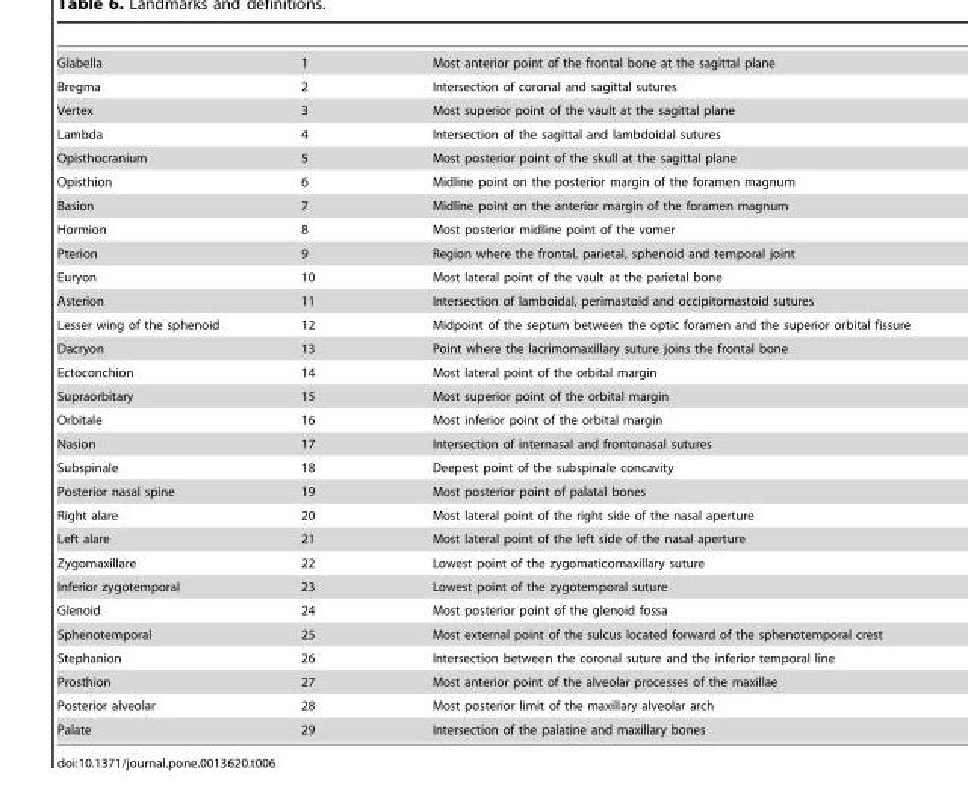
<table><tbody><tr><td>Glabella</td><td>1</td><td>Most anterior point of the frontal bone at the sagittal plane</td></tr><tr><td>Bregma</td><td>2</td><td>Intersection of coronal and sagittal sutures</td></tr><tr><td>Vertex</td><td>3</td><td>Most superior point of the vault at the sagittal plane</td></tr><tr><td>Lambda</td><td>4</td><td>Intersection of the sagittal and lambdoidal sutures</td></tr><tr><td>Opisthocranium</td><td>5</td><td>Most posterior point of the skull at the sagittal plane</td></tr><tr><td>Opisthion</td><td>6</td><td>Midline point on the posterior margin of the foramen magnum</td></tr><tr><td>Basion</td><td>7</td><td>Midline point on the anterior margin of the foramen magnum</td></tr><tr><td>Hormion</td><td>8</td><td>Most posterior midline point of the vomer</td></tr><tr><td>Pterion</td><td>9</td><td>Region where the frontal, parietal, sphenoid and temporal joint</td></tr><tr><td>Euryon</td><td>10</td><td>Most lateral point of the vault at the parietal bone</td></tr><tr><td>Asterion</td><td>11</td><td>Intersection of lamboidal, perimastoid and occipitomastoid sutures</td></tr><tr><td>Lesser wing of the sphenoid</td><td>12</td><td>Midpoint of the septum between the optic foramen and the superior orbital fissure</td></tr><tr><td>Dacryon</td><td>13</td><td>Point where the lacrimomaxillary suture joins the frontal bone</td></tr><tr><td>Ectoconchion</td><td>14</td><td>Most lateral point of the orbital margin</td></tr><tr><td>Supraorbitary</td><td>15</td><td>Most superior point of the orbital margin</td></tr><tr><td>Orbitale</td><td>16</td><td>Most inferior point of the orbital margin</td></tr><tr><td>Nasion</td><td>17</td><td>Intersection of internasal and frontonasal sutures</td></tr><tr><td>Subspinale</td><td>18</td><td>Deepest point of the subspinale concavity</td></tr><tr><td>Posterior nasal spine</td><td>19</td><td>Most posterior point of palatal bones</td></tr><tr><td>Right alare</td><td>20</td><td>Most lateral point of the right side of the nasal aperture</td></tr><tr><td>Left alare</td><td>21</td><td>Most lateral point of the left side of the nasal aperture</td></tr><tr><td>Zygomaxillare</td><td>22</td><td>Lowest point of the zygomaticomaxillary suture</td></tr><tr><td>Inferior zygotemporal</td><td>23</td><td>Lowest point of the zygotemporal suture</td></tr><tr><td>Glenoid</td><td>24</td><td>Most posterior point of the glenoid fossa</td></tr><tr><td>Sphenotemporal</td><td>25</td><td>Most external point of the sulcus located forward of the sphenotemporal crest</td></tr><tr><td>Stephanion</td><td>26</td><td>Intersection between the coronal suture and the inferior temporal line</td></tr><tr><td>Prosthion</td><td>27</td><td>Most anterior point of the alveolar processes of the maxillae</td></tr><tr><td>Posterior alveolar</td><td>28</td><td>Most posterior limit of the maxillary alveolar arch</td></tr><tr><td>Palate</td><td>29</td><td>Intersection of the palatine and maxillary bones</td></tr></tbody></table>